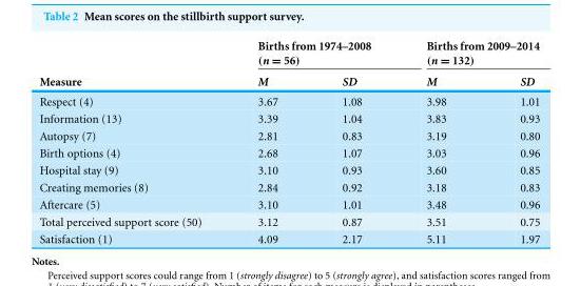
<table><thead><tr><td rowspan="2">Measure</td><td colspan="2">Births from 1974–2008 (n = 56)</td><td colspan="2">Births from 2009–2014 (n = 132)</td></tr><tr><td>M</td><td>SD</td><td>M</td><td>SD</td></tr></thead><tbody><tr><td>Respect (4)</td><td>3.67</td><td>1.08</td><td>3.98</td><td>1.01</td></tr><tr><td>Information (13)</td><td>3.39</td><td>1.04</td><td>3.83</td><td>0.93</td></tr><tr><td>Autopsy (7)</td><td>2.81</td><td>0.83</td><td>3.19</td><td>0.80</td></tr><tr><td>Birth options (4)</td><td>2.68</td><td>1.07</td><td>3.03</td><td>0.96</td></tr><tr><td>Hospital stay (9)</td><td>3.10</td><td>0.93</td><td>3.60</td><td>0.85</td></tr><tr><td>Creating memories (8)</td><td>2.84</td><td>0.92</td><td>3.18</td><td>0.83</td></tr><tr><td>Aftercare (5)</td><td>3.10</td><td>1.01</td><td>3.48</td><td>0.96</td></tr><tr><td>Total perceived support score (50)</td><td>3.12</td><td>0.87</td><td>3.51</td><td>0.75</td></tr><tr><td>Satisfaction (1)</td><td>4.09</td><td>2.17</td><td>5.11</td><td>1.97</td></tr></tbody></table>